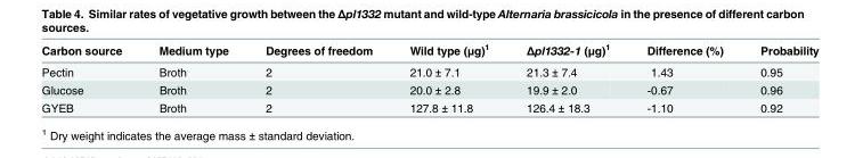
<table><thead><tr><td>Carbon source</td><td>Medium type</td><td>Degrees of freedom</td><td>Wild type (μg)<sup>1</sup></td><td>Δpl1332-1 (μg)<sup>1</sup></td><td>Difference (%)</td><td>Probability</td></tr></thead><tbody><tr><td>Pectin</td><td>Broth</td><td>2</td><td>21.0 ± 7.1</td><td>21.3 ± 7.4</td><td>1.43</td><td>0.95</td></tr><tr><td>Glucose</td><td>Broth</td><td>2</td><td>20.0 ± 2.8</td><td>19.9 ± 2.0</td><td>-0.67</td><td>0.96</td></tr><tr><td>GYEB</td><td>Broth</td><td>2</td><td>127.8 ± 11.8</td><td>126.4 ± 18.3</td><td>-1.10</td><td>0.92</td></tr></tbody></table>